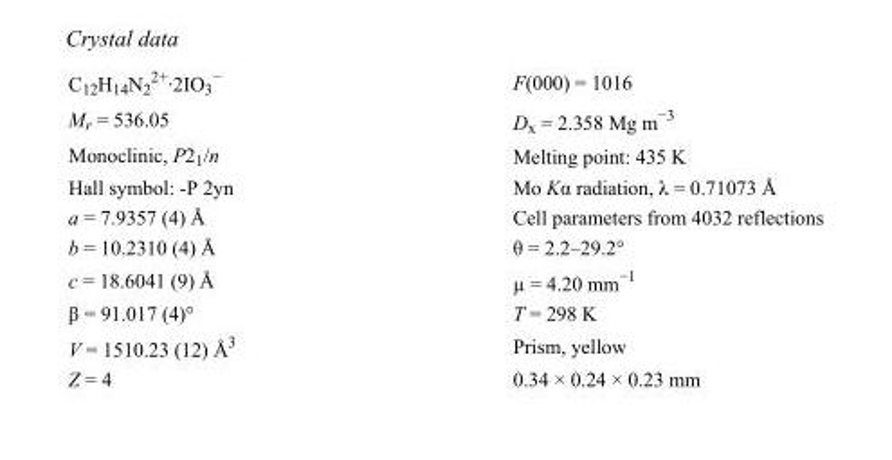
<table><tbody><tr><td>C<sub>12</sub>H<sub>14</sub>N<sub>2</sub> <sup>2+</sup>·2IO<sub>3</sub> <sup>−</sup></td><td>F(000) = 1016</td></tr><tr><td>M<sub>r</sub> = 536.05</td><td>D<sub>x</sub> = 2.358 Mg m<sup>−3</sup></td></tr><tr><td>Monoclinic, P2<sub>1</sub>/n</td><td>Melting point: 435 K</td></tr><tr><td>Hall symbol: -P 2yn</td><td>Mo Kα radiation, λ = 0.71073 Å</td></tr><tr><td>a = 7.9357 (4) Å</td><td>Cell parameters from 4032 reflections</td></tr><tr><td>b = 10.2310 (4) Å</td><td>θ = 2.2–29.2°</td></tr><tr><td>c = 18.6041 (9) Å</td><td>µ = 4.20 mm<sup>−1</sup></td></tr><tr><td>β = 91.017 (4)°</td><td>T = 298 K</td></tr><tr><td>V = 1510.23 (12) Å<sup>3</sup></td><td>Prism, yellow</td></tr><tr><td>Z = 4</td><td>0.34 × 0.24 × 0.23 mm</td></tr></tbody></table>